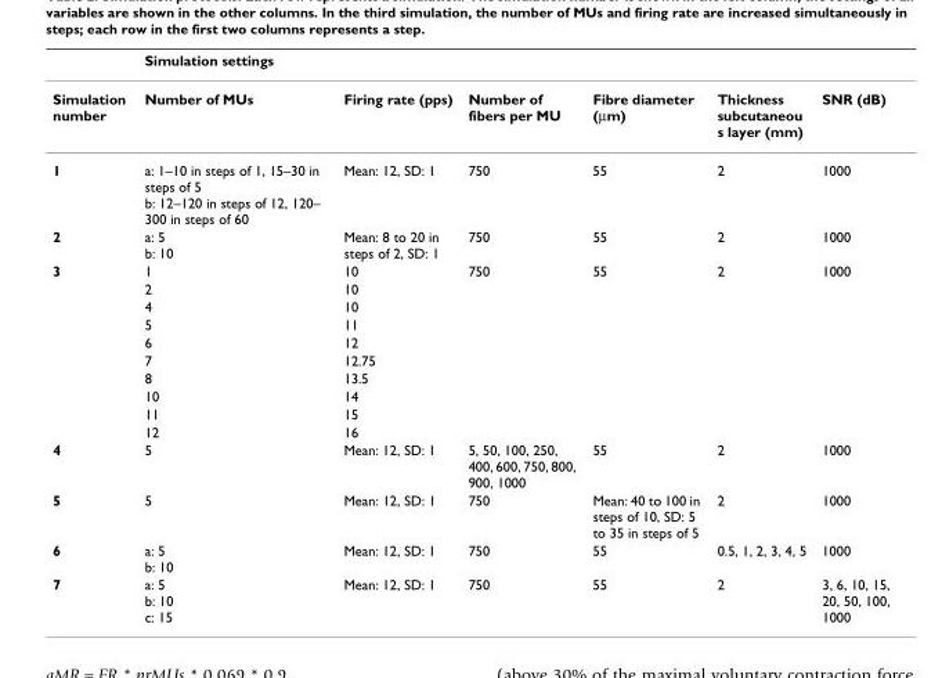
<table><thead><tr><td rowspan="2">Simulation number</td><td colspan="6">Simulation settings</td></tr><tr><td>Number of MUs</td><td>Firing rate (pps)</td><td>Number of fibers per MU</td><td>Fibre diameter (μm)</td><td>Thickness subcutaneou s layer (mm)</td><td>SNR (dB)</td></tr></thead><tbody><tr><td>1</td><td>a: 1–10 in steps of 1, 15–30 in steps of 5 b: 12–120 in steps of 12, 120– 300 in steps of 60</td><td>Mean: 12, SD: 1</td><td>750</td><td>55</td><td>2</td><td>1000</td></tr><tr><td>2</td><td>a: 5 b: 10</td><td>Mean: 8 to 20 in steps of 2, SD: 1</td><td>750</td><td>55</td><td>2</td><td>1000</td></tr><tr><td rowspan="10">3</td><td>1</td><td>10</td><td>750</td><td>55</td><td>2</td><td>1000</td></tr><tr><td>2</td><td>10</td><td></td><td></td><td></td><td></td></tr><tr><td>4</td><td>10</td><td></td><td></td><td></td><td></td></tr><tr><td>5</td><td>11</td><td></td><td></td><td></td><td></td></tr><tr><td>6</td><td>12</td><td></td><td></td><td></td><td></td></tr><tr><td>7</td><td>12.75</td><td></td><td></td><td></td><td></td></tr><tr><td>8</td><td>13.5</td><td></td><td></td><td></td><td></td></tr><tr><td>10</td><td>14</td><td></td><td></td><td></td><td></td></tr><tr><td>11</td><td>15</td><td></td><td></td><td></td><td></td></tr><tr><td>12</td><td>16</td><td></td><td></td><td></td><td></td></tr><tr><td>4</td><td>5</td><td>Mean: 12, SD: 1</td><td>5, 50, 100, 250, 400, 600, 750, 800, 900, 1000</td><td>55</td><td>2</td><td>1000</td></tr><tr><td>5</td><td>5</td><td>Mean: 12, SD: 1</td><td>750</td><td>Mean: 40 to 100 in steps of 10, SD: 5 to 35 in steps of 5</td><td>2</td><td>1000</td></tr><tr><td>6</td><td>a: 5 b: 10</td><td>Mean: 12, SD: 1</td><td>750</td><td>55</td><td>0.5, 1, 2, 3, 4, 5</td><td>1000</td></tr><tr><td>7</td><td>a: 5 b: 10 c: 15</td><td>Mean: 12, SD: 1</td><td>750</td><td>55</td><td>2</td><td>3, 6, 10, 15, 20, 50, 100, 1000</td></tr></tbody></table>